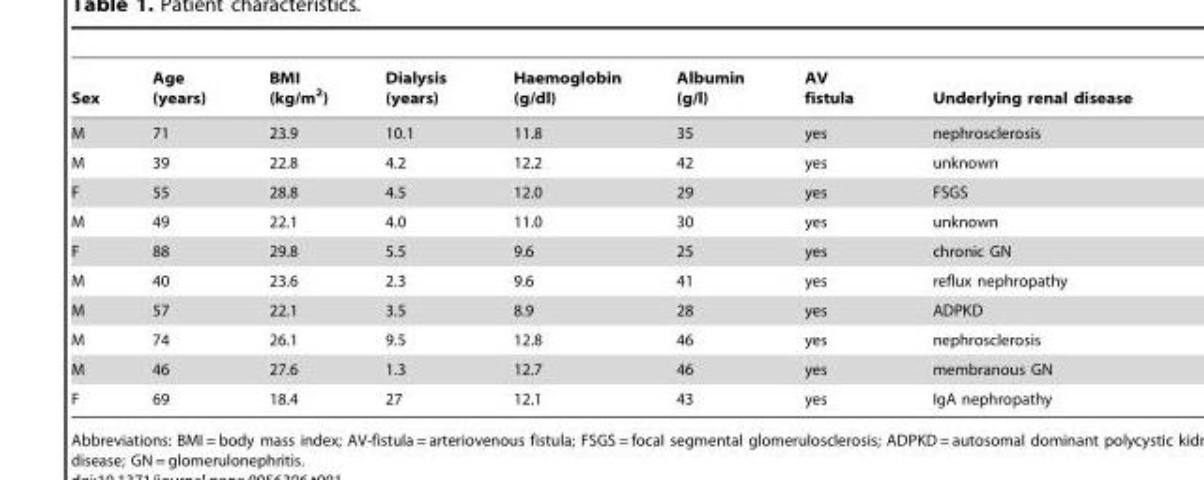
<table><thead><tr><td>Sex</td><td>Age (years)</td><td>BMI (kg/m<sup>2</sup>)</td><td>Dialysis (years)</td><td>Haemoglobin (g/dl)</td><td>Albumin (g/l)</td><td>AV fistula</td><td>Underlying renal disease</td></tr></thead><tbody><tr><td>M</td><td>71</td><td>23.9</td><td>10.1</td><td>11.8</td><td>35</td><td>yes</td><td>nephrosclerosis</td></tr><tr><td>M</td><td>39</td><td>22.8</td><td>4.2</td><td>12.2</td><td>42</td><td>yes</td><td>unknown</td></tr><tr><td>F</td><td>55</td><td>28.8</td><td>4.5</td><td>12.0</td><td>29</td><td>yes</td><td>FSGS</td></tr><tr><td>M</td><td>49</td><td>22.1</td><td>4.0</td><td>11.0</td><td>30</td><td>yes</td><td>unknown</td></tr><tr><td>F</td><td>88</td><td>29.8</td><td>5.5</td><td>9.6</td><td>25</td><td>yes</td><td>chronic GN</td></tr><tr><td>M</td><td>40</td><td>23.6</td><td>2.3</td><td>9.6</td><td>41</td><td>yes</td><td>reflux nephropathy</td></tr><tr><td>M</td><td>57</td><td>22.1</td><td>3.5</td><td>8.9</td><td>28</td><td>yes</td><td>ADPKD</td></tr><tr><td>M</td><td>74</td><td>26.1</td><td>9.5</td><td>12.8</td><td>46</td><td>yes</td><td>nephrosclerosis</td></tr><tr><td>M</td><td>46</td><td>27.6</td><td>1.3</td><td>12.7</td><td>46</td><td>yes</td><td>membranous GN</td></tr><tr><td>F</td><td>69</td><td>18.4</td><td>27</td><td>12.1</td><td>43</td><td>yes</td><td>IgA nephropathy</td></tr></tbody></table>